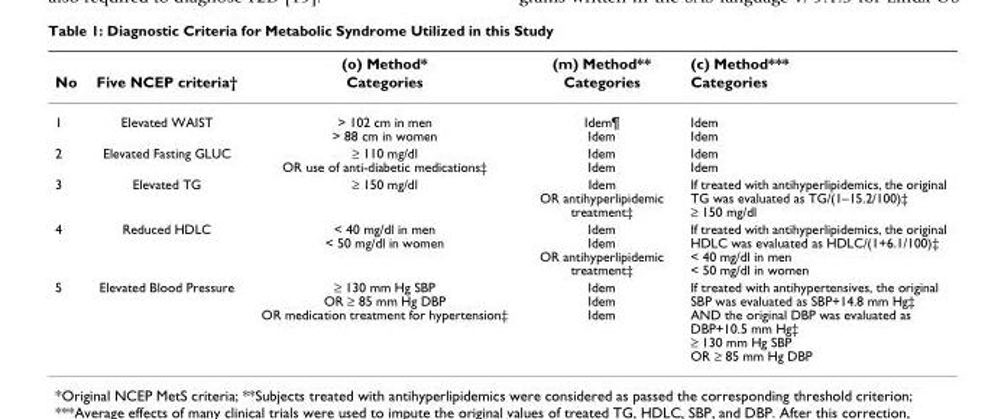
<table><thead><tr><td rowspan="2">No</td><td rowspan="2">Five NCEP criteria†</td><td rowspan="2">(o) Method* Categories</td><td rowspan="2">(m) Method** Categories</td><td rowspan="2">(c) Method*** Categories</td></tr><tr></tr></thead><tbody><tr><td>1</td><td>Elevated WAIST</td><td>&gt; 102 cm in men &gt; 88 cm in women</td><td>Idem¶ Idem</td><td>Idem Idem</td></tr><tr><td>2</td><td>Elevated Fasting GLUC</td><td>≥ 110 mg/dl OR use of anti-diabetic medications‡</td><td>Idem Idem</td><td>Idem Idem</td></tr><tr><td>3</td><td>Elevated TG</td><td>≥ 150 mg/dl</td><td>Idem OR antihyperlipidemic treatment‡</td><td>If treated with antihyperlipidemics, the original TG was evaluated as TG/(1–15.2/100)‡ ≥ 150 mg/dl</td></tr><tr><td>4</td><td>Reduced HDLC</td><td>&lt; 40 mg/dl in men &lt; 50 mg/dl in women</td><td>Idem Idem OR antihyperlipidemic treatment‡</td><td>If treated with antihyperlipidemics, the original HDLC was evaluated as HDLC/(1+6.1/100)‡ &lt; 40 mg/dl in men &lt; 50 mg/dl in women</td></tr><tr><td>5</td><td>Elevated Blood Pressure</td><td>≥ 130 mm Hg SBP OR ≥ 85 mm Hg DBP OR medication treatment for hypertension‡</td><td>Idem Idem Idem</td><td>If treated with antihypertensives, the original SBP was evaluated as SBP+14.8 mm Hg‡ AND the original DBP was evaluated as DBP+10.5 mm Hg‡ ≥ 130 mm Hg SBP OR ≥ 85 mm Hg DBP</td></tr></tbody></table>